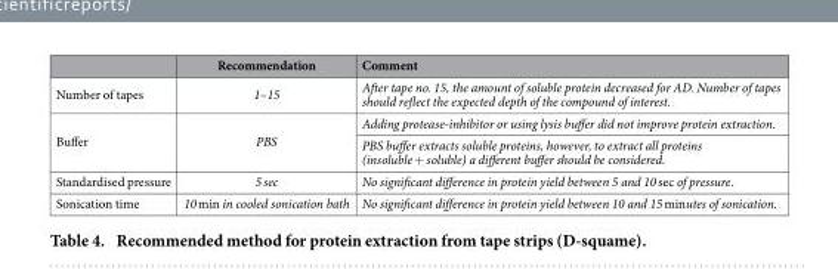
<table><thead><tr><td></td><td>Recommendation</td><td>Comment</td></tr></thead><tbody><tr><td>Number of tapes</td><td>1–15</td><td>After tape no. 15, the amount of soluble protein decreased for AD. Number of tapes should reflect the expected depth of the compound of interest.</td></tr><tr><td rowspan="2">Buffer</td><td rowspan="2">PBS</td><td>Adding protease-inhibitor or using lysis buffer did not improve protein extraction.</td></tr><tr><td>PBS buffer extracts soluble proteins, however, to extract all proteins (insoluble + soluble) a different buffer should be considered.</td></tr><tr><td>Standardised pressure</td><td>5 sec</td><td>No significant difference in protein yield between 5 and 10 sec of pressure.</td></tr><tr><td>Sonication time</td><td>10 min in cooled sonication bath</td><td>No significant difference in protein yield between 10 and 15 minutes of sonication.</td></tr></tbody></table>